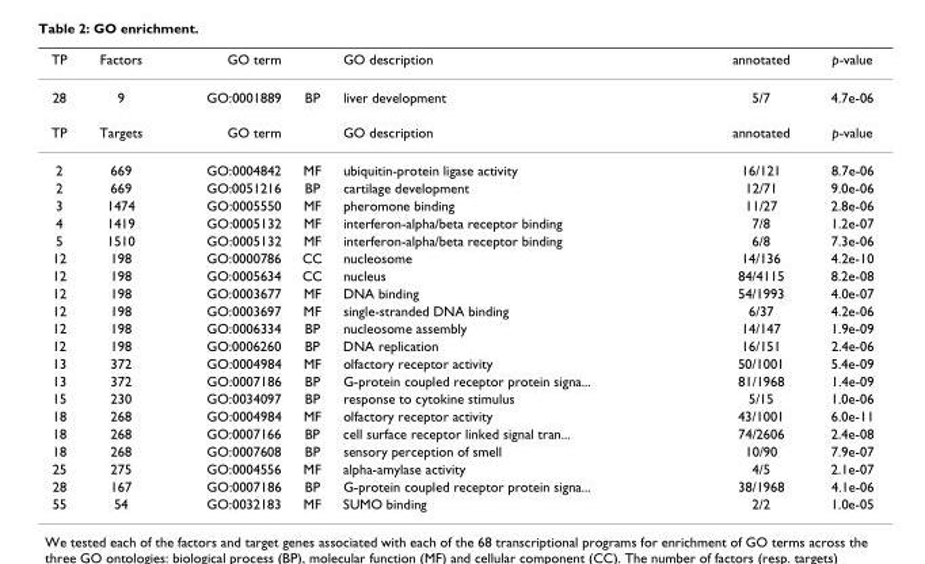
<table><thead><tr><td>TP</td><td>Factors</td><td>GO term</td><td></td><td>GO description</td><td>annotated</td><td>p-value</td></tr></thead><tbody><tr><td>28</td><td>9</td><td>GO:0001889</td><td>BP</td><td>liver development</td><td>5/7</td><td>4.7e-06</td></tr><tr><td>TP</td><td>Targets</td><td>GO term</td><td></td><td>GO description</td><td>annotated</td><td>p-value</td></tr><tr><td>2</td><td>669</td><td>GO:0004842</td><td>MF</td><td>ubiquitin-protein ligase activity</td><td>16/121</td><td>8.7e-06</td></tr><tr><td>2</td><td>669</td><td>GO:0051216</td><td>BP</td><td>cartilage development</td><td>12/71</td><td>9.0e-06</td></tr><tr><td>3</td><td>1474</td><td>GO:0005550</td><td>MF</td><td>pheromone binding</td><td>11/27</td><td>2.8e-06</td></tr><tr><td>4</td><td>1419</td><td>GO:0005132</td><td>MF</td><td>interferon-alpha/beta receptor binding</td><td>7/8</td><td>1.2e-07</td></tr><tr><td>5</td><td>1510</td><td>GO:0005132</td><td>MF</td><td>interferon-alpha/beta receptor binding</td><td>6/8</td><td>7.3e-06</td></tr><tr><td>12</td><td>198</td><td>GO:0000786</td><td>CC</td><td>nucleosome</td><td>14/136</td><td>4.2e-10</td></tr><tr><td>12</td><td>198</td><td>GO:0005634</td><td>CC</td><td>nucleus</td><td>84/4115</td><td>8.2e-08</td></tr><tr><td>12</td><td>198</td><td>GO:0003677</td><td>MF</td><td>DNA binding</td><td>54/1993</td><td>4.0e-07</td></tr><tr><td>12</td><td>198</td><td>GO:0003697</td><td>MF</td><td>single-stranded DNA binding</td><td>6/37</td><td>4.2e-06</td></tr><tr><td>12</td><td>198</td><td>GO:0006334</td><td>BP</td><td>nucleosome assembly</td><td>14/147</td><td>1.9e-09</td></tr><tr><td>12</td><td>198</td><td>GO:0006260</td><td>BP</td><td>DNA replication</td><td>16/151</td><td>2.4e-06</td></tr><tr><td>13</td><td>372</td><td>GO:0004984</td><td>MF</td><td>olfactory receptor activity</td><td>50/1001</td><td>5.4e-09</td></tr><tr><td>13</td><td>372</td><td>GO:0007186</td><td>BP</td><td>G-protein coupled receptor protein signa...</td><td>81/1968</td><td>1.4e-09</td></tr><tr><td>15</td><td>230</td><td>GO:0034097</td><td>BP</td><td>response to cytokine stimulus</td><td>5/15</td><td>1.0e-06</td></tr><tr><td>18</td><td>268</td><td>GO:0004984</td><td>MF</td><td>olfactory receptor activity</td><td>43/1001</td><td>6.0e-11</td></tr><tr><td>18</td><td>268</td><td>GO:0007166</td><td>BP</td><td>cell surface receptor linked signal tran...</td><td>74/2606</td><td>2.4e-08</td></tr><tr><td>18</td><td>268</td><td>GO:0007608</td><td>BP</td><td>sensory perception of smell</td><td>10/90</td><td>7.9e-07</td></tr><tr><td>25</td><td>275</td><td>GO:0004556</td><td>MF</td><td>alpha-amylase activity</td><td>4/5</td><td>2.1e-07</td></tr><tr><td>28</td><td>167</td><td>GO:0007186</td><td>BP</td><td>G-protein coupled receptor protein signa...</td><td>38/1968</td><td>4.1e-06</td></tr><tr><td>55</td><td>54</td><td>GO:0032183</td><td>MF</td><td>SUMO binding</td><td>2/2</td><td>1.0e-05</td></tr></tbody></table>